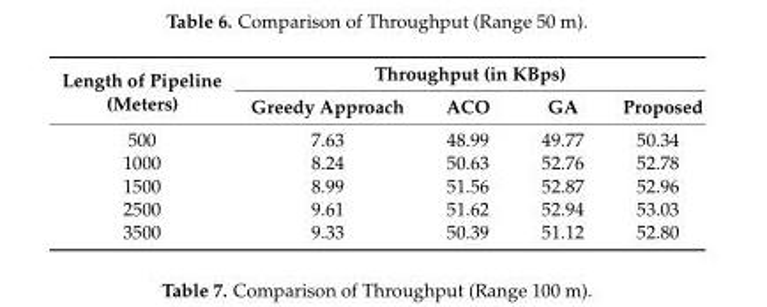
<table><thead><tr><td rowspan="2">Length of Pipeline (Meters)</td><td colspan="4">Throughput (in KBps)</td></tr><tr><td>Greedy Approach</td><td>ACO</td><td>GA</td><td>Proposed</td></tr></thead><tbody><tr><td>500</td><td>7.63</td><td>48.99</td><td>49.77</td><td>50.34</td></tr><tr><td>1000</td><td>8.24</td><td>50.63</td><td>52.76</td><td>52.78</td></tr><tr><td>1500</td><td>8.99</td><td>51.56</td><td>52.87</td><td>52.96</td></tr><tr><td>2500</td><td>9.61</td><td>51.62</td><td>52.94</td><td>53.03</td></tr><tr><td>3500</td><td>9.33</td><td>50.39</td><td>51.12</td><td>52.80</td></tr></tbody></table>